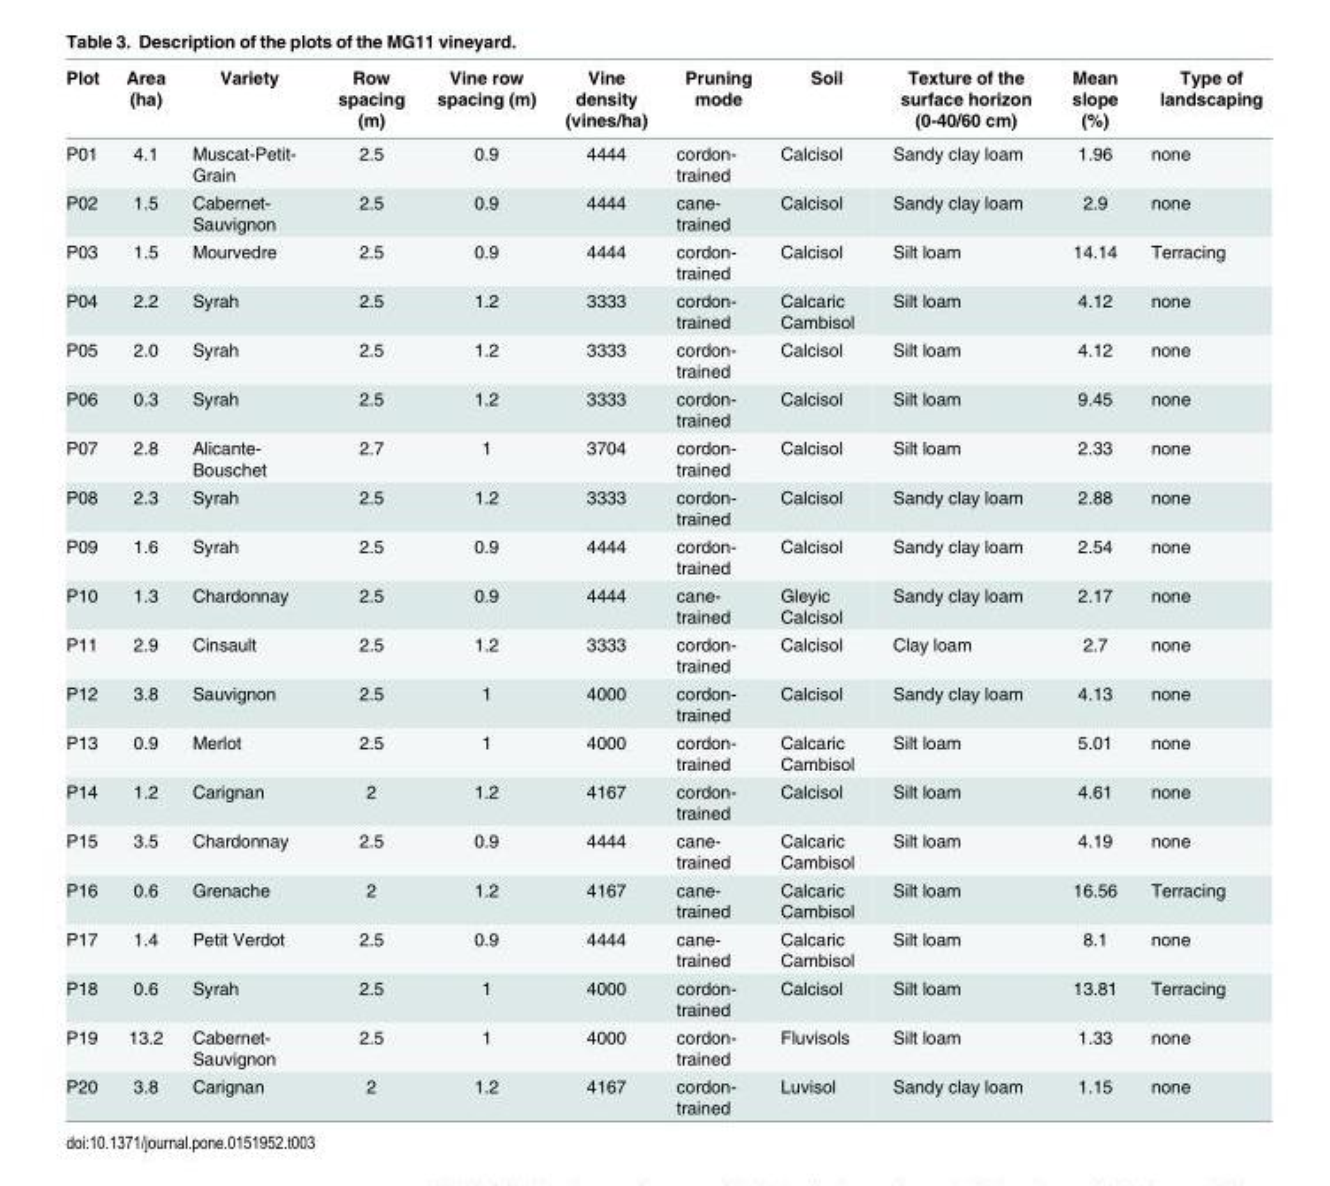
<table><thead><tr><td>Plot</td><td>Area (ha)</td><td>Variety</td><td>Row spacing (m)</td><td>Vine row spacing (m)</td><td>Vine density (vines/ha)</td><td>Pruning mode</td><td>Soil</td><td>Texture of the surface horizon (0-40/60 cm)</td><td>Mean slope (%)</td><td>Type of landscaping</td></tr></thead><tbody><tr><td>P01</td><td>4.1</td><td>Muscat-Petit- Grain</td><td>2.5</td><td>0.9</td><td>4444</td><td>cordon- trained</td><td>Calcisol</td><td>Sandy clay loam</td><td>1.96</td><td>none</td></tr><tr><td>P02</td><td>1.5</td><td>Cabernet- Sauvignon</td><td>2.5</td><td>0.9</td><td>4444</td><td>cane- trained</td><td>Calcisol</td><td>Sandy clay loam</td><td>2.9</td><td>none</td></tr><tr><td>P03</td><td>1.5</td><td>Mourvedre</td><td>2.5</td><td>0.9</td><td>4444</td><td>cordon- trained</td><td>Calcisol</td><td>Silt loam</td><td>14.14</td><td>Terracing</td></tr><tr><td>P04</td><td>2.2</td><td>Syrah</td><td>2.5</td><td>1.2</td><td>3333</td><td>cordon- trained</td><td>Calcaric Cambisol</td><td>Silt loam</td><td>4.12</td><td>none</td></tr><tr><td>P05</td><td>2.0</td><td>Syrah</td><td>2.5</td><td>1.2</td><td>3333</td><td>cordon- trained</td><td>Calcisol</td><td>Silt loam</td><td>4.12</td><td>none</td></tr><tr><td>P06</td><td>0.3</td><td>Syrah</td><td>2.5</td><td>1.2</td><td>3333</td><td>cordon- trained</td><td>Calcisol</td><td>Silt loam</td><td>9.45</td><td>none</td></tr><tr><td>P07</td><td>2.8</td><td>Alicante- Bouschet</td><td>2.7</td><td>1</td><td>3704</td><td>cordon- trained</td><td>Calcisol</td><td>Silt loam</td><td>2.33</td><td>none</td></tr><tr><td>P08</td><td>2.3</td><td>Syrah</td><td>2.5</td><td>1.2</td><td>3333</td><td>cordon- trained</td><td>Calcisol</td><td>Sandy clay loam</td><td>2.88</td><td>none</td></tr><tr><td>P09</td><td>1.6</td><td>Syrah</td><td>2.5</td><td>0.9</td><td>4444</td><td>cordon- trained</td><td>Calcisol</td><td>Sandy clay loam</td><td>2.54</td><td>none</td></tr><tr><td>P10</td><td>1.3</td><td>Chardonnay</td><td>2.5</td><td>0.9</td><td>4444</td><td>cane- trained</td><td>Gleyic Calcisol</td><td>Sandy clay loam</td><td>2.17</td><td>none</td></tr><tr><td>P11</td><td>2.9</td><td>Cinsault</td><td>2.5</td><td>1.2</td><td>3333</td><td>cordon- trained</td><td>Calcisol</td><td>Clay loam</td><td>2.7</td><td>none</td></tr><tr><td>P12</td><td>3.8</td><td>Sauvignon</td><td>2.5</td><td>1</td><td>4000</td><td>cordon- trained</td><td>Calcisol</td><td>Sandy clay loam</td><td>4.13</td><td>none</td></tr><tr><td>P13</td><td>0.9</td><td>Merlot</td><td>2.5</td><td>1</td><td>4000</td><td>cordon- trained</td><td>Calcaric Cambisol</td><td>Silt loam</td><td>5.01</td><td>none</td></tr><tr><td>P14</td><td>1.2</td><td>Carignan</td><td>2</td><td>1.2</td><td>4167</td><td>cordon- trained</td><td>Calcisol</td><td>Silt loam</td><td>4.61</td><td>none</td></tr><tr><td>P15</td><td>3.5</td><td>Chardonnay</td><td>2.5</td><td>0.9</td><td>4444</td><td>cane- trained</td><td>Calcaric Cambisol</td><td>Silt loam</td><td>4.19</td><td>none</td></tr><tr><td>P16</td><td>0.6</td><td>Grenache</td><td>2</td><td>1.2</td><td>4167</td><td>cane- trained</td><td>Calcaric Cambisol</td><td>Silt loam</td><td>16.56</td><td>Terracing</td></tr><tr><td>P17</td><td>1.4</td><td>Petit Verdot</td><td>2.5</td><td>0.9</td><td>4444</td><td>cane- trained</td><td>Calcaric Cambisol</td><td>Silt loam</td><td>8.1</td><td>none</td></tr><tr><td>P18</td><td>0.6</td><td>Syrah</td><td>2.5</td><td>1</td><td>4000</td><td>cordon- trained</td><td>Calcisol</td><td>Silt loam</td><td>13.81</td><td>Terracing</td></tr><tr><td>P19</td><td>13.2</td><td>Cabernet- Sauvignon</td><td>2.5</td><td>1</td><td>4000</td><td>cordon- trained</td><td>Fluvisols</td><td>Silt loam</td><td>1.33</td><td>none</td></tr><tr><td>P20</td><td>3.8</td><td>Carignan</td><td>2</td><td>1.2</td><td>4167</td><td>cordon- trained</td><td>Luvisol</td><td>Sandy clay loam</td><td>1.15</td><td>none</td></tr></tbody></table>